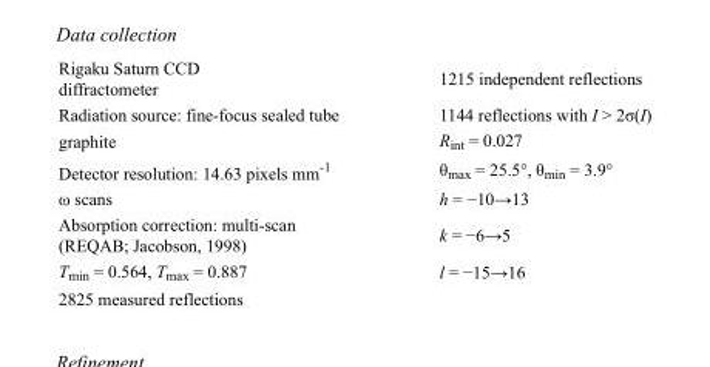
<table><tbody><tr><td>Rigaku Saturn CCD diffractometer</td><td>1215 independent reflections</td></tr><tr><td>Radiation source: fine-focus sealed tube</td><td>1144 reflections with I &gt; 2σ(I)</td></tr><tr><td>graphite</td><td>R<sub>int</sub> = 0.027</td></tr><tr><td>Detector resolution: 14.63 pixels mm<sup>-1</sup></td><td>θ<sub>max</sub> = 25.5°, θ<sub>min</sub> = 3.9°</td></tr><tr><td>ω scans</td><td>h = −10→13</td></tr><tr><td>Absorption correction: multi-scan (REQAB; Jacobson, 1998)</td><td>k = −6→5</td></tr><tr><td>T<sub>min</sub> = 0.564, T<sub>max</sub> = 0.887</td><td>l = −15→16</td></tr><tr><td>2825 measured reflections</td><td></td></tr></tbody></table>